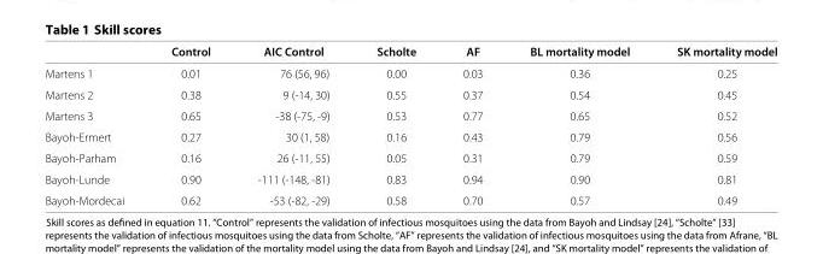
<table><thead><tr><td></td><td>Control</td><td>AIC Control</td><td>Scholte</td><td>AF</td><td>BL mortality model</td><td>SK mortality model</td></tr></thead><tbody><tr><td>Martens 1</td><td>0.01</td><td>76 (56, 96)</td><td>0.00</td><td>0.03</td><td>0.36</td><td>0.25</td></tr><tr><td>Martens 2</td><td>0.38</td><td>9 (-14, 30)</td><td>0.55</td><td>0.37</td><td>0.54</td><td>0.45</td></tr><tr><td>Martens 3</td><td>0.65</td><td>-38 (-75, -9)</td><td>0.53</td><td>0.77</td><td>0.65</td><td>0.52</td></tr><tr><td>Bayoh-Ermert</td><td>0.27</td><td>30 (1, 58)</td><td>0.16</td><td>0.43</td><td>0.79</td><td>0.56</td></tr><tr><td>Bayoh-Parham</td><td>0.16</td><td>26 (-11, 55)</td><td>0.05</td><td>0.31</td><td>0.79</td><td>0.59</td></tr><tr><td>Bayoh-Lunde</td><td>0.90</td><td>-111 (-148, -81)</td><td>0.83</td><td>0.94</td><td>0.90</td><td>0.81</td></tr><tr><td>Bayoh-Mordecai</td><td>0.62</td><td>-53 (-82, -29)</td><td>0.58</td><td>0.70</td><td>0.57</td><td>0.49</td></tr></tbody></table>